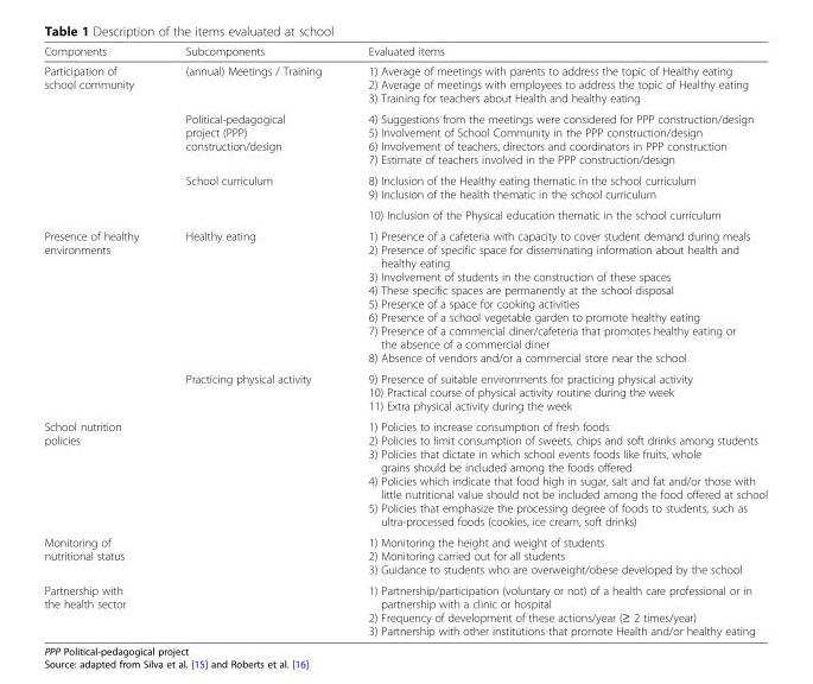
<table><thead><tr><td>Components</td><td>Subcomponents</td><td>Evaluated items</td></tr></thead><tbody><tr><td rowspan="4">Participation of school community</td><td>(annual) Meetings / Training</td><td>1) Average of meetings with parents to address the topic of Healthy eating 2) Average of meetings with employees to address the topic of Healthy eating 3) Training for teachers about Health and healthy eating</td></tr><tr><td>Political-pedagogical project (PPP) construction/design</td><td>4) Suggestions from the meetings were considered for PPP construction/design 5) Involvement of School Community in the PPP construction/design 6) Involvement of teachers, directors and coordinators in PPP construction 7) Estimate of teachers involved in the PPP construction/design</td></tr><tr><td rowspan="2">School curriculum</td><td>8) Inclusion of the Healthy eating thematic in the school curriculum 9) Inclusion of the health thematic in the school curriculum</td></tr><tr><td>10) Inclusion of the Physical education thematic in the school curriculum</td></tr><tr><td rowspan="2">Presence of healthy environments</td><td>Healthy eating</td><td>1) Presence of a cafeteria with capacity to cover student demand during meals 2) Presence of specific space for disseminating information about health and healthy eating 3) Involvement of students in the construction of these spaces 4) These specific spaces are permanently at the school disposal 5) Presence of a space for cooking activities 6) Presence of a school vegetable garden to promote healthy eating 7) Presence of a commercial diner/cafeteria that promotes healthy eating or the absence of a commercial diner 8) Absence of vendors and/or a commercial store near the school</td></tr><tr><td>Practicing physical activity</td><td>9) Presence of suitable environments for practicing physical activity 10) Practical course of physical activity routine during the week 11) Extra physical activity during the week</td></tr><tr><td colspan="2">School nutrition policies</td><td>1) Policies to increase consumption of fresh foods 2) Policies to limit consumption of sweets, chips and soft drinks among students 3) Policies that dictate in which school events foods like fruits, whole grains should be included among the foods offered 4) Policies which indicate that food high in sugar, salt and fat and/or those with little nutritional value should not be included among the food offered at school 5) Policies that emphasize the processing degree of foods to students, such as ultra-processed foods (cookies, ice cream, soft drinks)</td></tr><tr><td colspan="2">Monitoring of nutritional status</td><td>1) Monitoring the height and weight of students 2) Monitoring carried out for all students 3) Guidance to students who are overweight/obese developed by the school</td></tr><tr><td colspan="2">Partnership with the health sector</td><td>1) Partnership/participation (voluntary or not) of a health care professional or in partnership with a clinic or hospital 2) Frequency of development of these actions/year (≥ 2 times/year) 3) Partnership with other institutions that promote Health and/or healthy eating</td></tr></tbody></table>